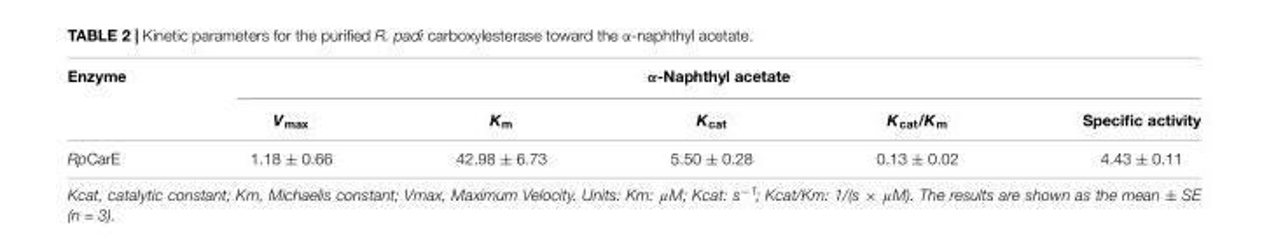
<table><thead><tr><td rowspan="2">Enzyme</td><td colspan="5">α-Naphthyl acetate</td></tr><tr><td>V<sub>max</sub></td><td>K<sub>m</sub></td><td>K<sub>cat</sub></td><td>K<sub>cat</sub>/K<sub>m</sub></td><td>Specific activity</td></tr></thead><tbody><tr><td>RpCarE</td><td>1.18 ± 0.66</td><td>42.98 ± 6.73</td><td>5.50 ± 0.28</td><td>0.13 ± 0.02</td><td>4.43 ± 0.11</td></tr></tbody></table>